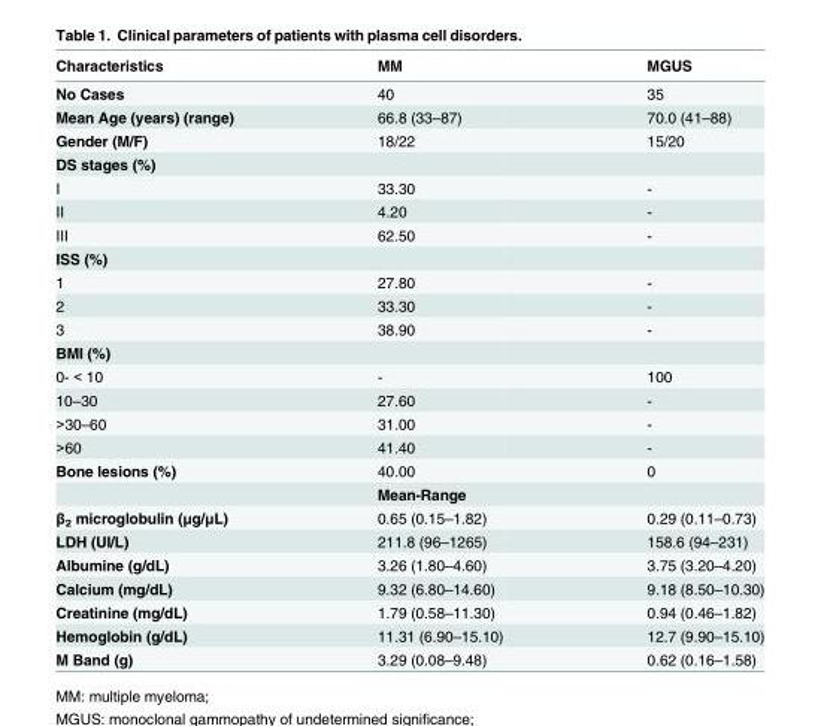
<table><thead><tr><td>Characteristics</td><td>MM</td><td>MGUS</td></tr></thead><tbody><tr><td>No Cases</td><td>40</td><td>35</td></tr><tr><td>Mean Age (years) (range)</td><td>66.8 (33–87)</td><td>70.0 (41–88)</td></tr><tr><td>Gender (M/F)</td><td>18/22</td><td>15/20</td></tr><tr><td colspan="3">DS stages (%)</td></tr><tr><td>I</td><td>33.30</td><td>-</td></tr><tr><td>II</td><td>4.20</td><td>-</td></tr><tr><td>III</td><td>62.50</td><td>-</td></tr><tr><td colspan="3">ISS (%)</td></tr><tr><td>1</td><td>27.80</td><td>-</td></tr><tr><td>2</td><td>33.30</td><td>-</td></tr><tr><td>3</td><td>38.90</td><td>-</td></tr><tr><td colspan="3">BMI (%)</td></tr><tr><td>0- &lt; 10</td><td>-</td><td>100</td></tr><tr><td>10–30</td><td>27.60</td><td>-</td></tr><tr><td>&gt;30–60</td><td>31.00</td><td>-</td></tr><tr><td>&gt;60</td><td>41.40</td><td>-</td></tr><tr><td rowspan="2">Bone lesions (%)</td><td>40.00</td><td>0</td></tr><tr><td colspan="2">Mean-Range</td></tr><tr><td>β<sub>2</sub> microglobulin (μg/μL)</td><td>0.65 (0.15–1.82)</td><td>0.29 (0.11–0.73)</td></tr><tr><td>LDH (UI/L)</td><td>211.8 (96–1265)</td><td>158.6 (94–231)</td></tr><tr><td>Albumine (g/dL)</td><td>3.26 (1.80–4.60)</td><td>3.75 (3.20–4.20)</td></tr><tr><td>Calcium (mg/dL)</td><td>9.32 (6.80–14.60)</td><td>9.18 (8.50–10.30)</td></tr><tr><td>Creatinine (mg/dL)</td><td>1.79 (0.58–11.30)</td><td>0.94 (0.46–1.82)</td></tr><tr><td>Hemoglobin (g/dL)</td><td>11.31 (6.90–15.10)</td><td>12.7 (9.90–15.10)</td></tr><tr><td>M Band (g)</td><td>3.29 (0.08–9.48)</td><td>0.62 (0.16–1.58)</td></tr></tbody></table>